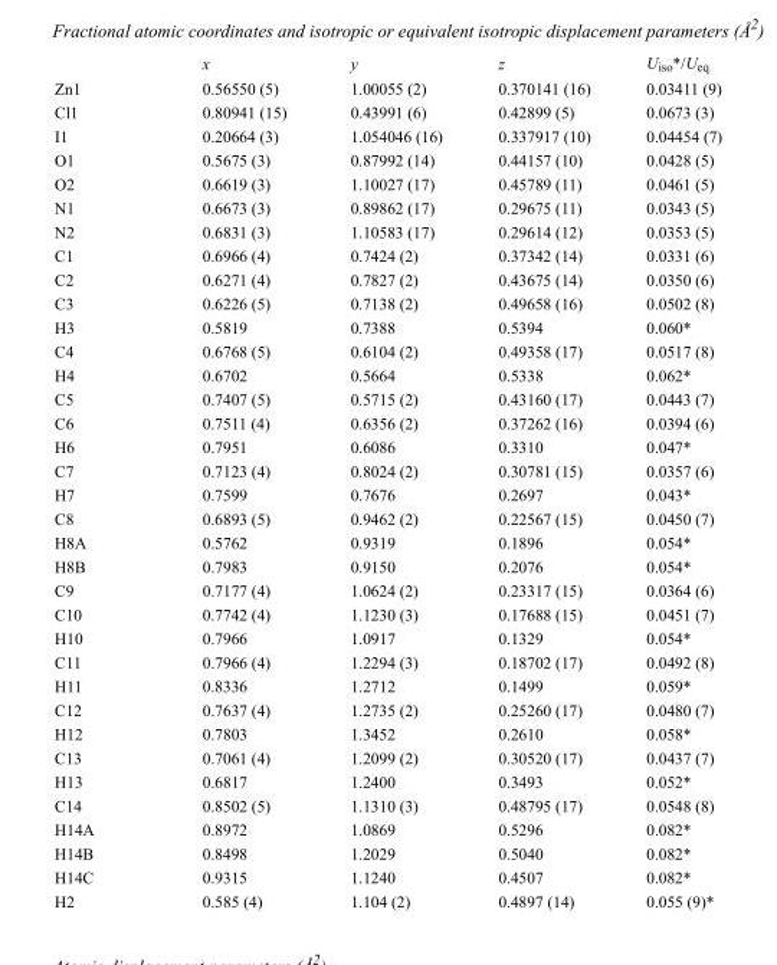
<table><thead><tr><td></td><td>x</td><td>y</td><td>z</td><td>U<sub>iso</sub>*/U<sub>eq</sub></td></tr></thead><tbody><tr><td>Zn1</td><td>0.56550 (5)</td><td>1.00055 (2)</td><td>0.370141 (16)</td><td>0.03411 (9)</td></tr><tr><td>Cl1</td><td>0.80941 (15)</td><td>0.43991 (6)</td><td>0.42899 (5)</td><td>0.0673 (3)</td></tr><tr><td>I1</td><td>0.20664 (3)</td><td>1.054046 (16)</td><td>0.337917 (10)</td><td>0.04454 (7)</td></tr><tr><td>O1</td><td>0.5675 (3)</td><td>0.87992 (14)</td><td>0.44157 (10)</td><td>0.0428 (5)</td></tr><tr><td>O2</td><td>0.6619 (3)</td><td>1.10027 (17)</td><td>0.45789 (11)</td><td>0.0461 (5)</td></tr><tr><td>N1</td><td>0.6673 (3)</td><td>0.89862 (17)</td><td>0.29675 (11)</td><td>0.0343 (5)</td></tr><tr><td>N2</td><td>0.6831 (3)</td><td>1.10583 (17)</td><td>0.29614 (12)</td><td>0.0353 (5)</td></tr><tr><td>C1</td><td>0.6966 (4)</td><td>0.7424 (2)</td><td>0.37342 (14)</td><td>0.0331 (6)</td></tr><tr><td>C2</td><td>0.6271 (4)</td><td>0.7827 (2)</td><td>0.43675 (14)</td><td>0.0350 (6)</td></tr><tr><td>C3</td><td>0.6226 (5)</td><td>0.7138 (2)</td><td>0.49658 (16)</td><td>0.0502 (8)</td></tr><tr><td>H3</td><td>0.5819</td><td>0.7388</td><td>0.5394</td><td>0.060*</td></tr><tr><td>C4</td><td>0.6768 (5)</td><td>0.6104 (2)</td><td>0.49358 (17)</td><td>0.0517 (8)</td></tr><tr><td>H4</td><td>0.6702</td><td>0.5664</td><td>0.5338</td><td>0.062*</td></tr><tr><td>C5</td><td>0.7407 (5)</td><td>0.5715 (2)</td><td>0.43160 (17)</td><td>0.0443 (7)</td></tr><tr><td>C6</td><td>0.7511 (4)</td><td>0.6356 (2)</td><td>0.37262 (16)</td><td>0.0394 (6)</td></tr><tr><td>H6</td><td>0.7951</td><td>0.6086</td><td>0.3310</td><td>0.047*</td></tr><tr><td>C7</td><td>0.7123 (4)</td><td>0.8024 (2)</td><td>0.30781 (15)</td><td>0.0357 (6)</td></tr><tr><td>H7</td><td>0.7599</td><td>0.7676</td><td>0.2697</td><td>0.043*</td></tr><tr><td>C8</td><td>0.6893 (5)</td><td>0.9462 (2)</td><td>0.22567 (15)</td><td>0.0450 (7)</td></tr><tr><td>H8A</td><td>0.5762</td><td>0.9319</td><td>0.1896</td><td>0.054*</td></tr><tr><td>H8B</td><td>0.7983</td><td>0.9150</td><td>0.2076</td><td>0.054*</td></tr><tr><td>C9</td><td>0.7177 (4)</td><td>1.0624 (2)</td><td>0.23317 (15)</td><td>0.0364 (6)</td></tr><tr><td>C10</td><td>0.7742 (4)</td><td>1.1230 (3)</td><td>0.17688 (15)</td><td>0.0451 (7)</td></tr><tr><td>H10</td><td>0.7966</td><td>1.0917</td><td>0.1329</td><td>0.054*</td></tr><tr><td>C11</td><td>0.7966 (4)</td><td>1.2294 (3)</td><td>0.18702 (17)</td><td>0.0492 (8)</td></tr><tr><td>H11</td><td>0.8336</td><td>1.2712</td><td>0.1499</td><td>0.059*</td></tr><tr><td>C12</td><td>0.7637 (4)</td><td>1.2735 (2)</td><td>0.25260 (17)</td><td>0.0480 (7)</td></tr><tr><td>H12</td><td>0.7803</td><td>1.3452</td><td>0.2610</td><td>0.058*</td></tr><tr><td>C13</td><td>0.7061 (4)</td><td>1.2099 (2)</td><td>0.30520 (17)</td><td>0.0437 (7)</td></tr><tr><td>H13</td><td>0.6817</td><td>1.2400</td><td>0.3493</td><td>0.052*</td></tr><tr><td>C14</td><td>0.8502 (5)</td><td>1.1310 (3)</td><td>0.48795 (17)</td><td>0.0548 (8)</td></tr><tr><td>H14A</td><td>0.8972</td><td>1.0869</td><td>0.5296</td><td>0.082*</td></tr><tr><td>H14B</td><td>0.8498</td><td>1.2029</td><td>0.5040</td><td>0.082*</td></tr><tr><td>H14C</td><td>0.9315</td><td>1.1240</td><td>0.4507</td><td>0.082*</td></tr><tr><td>H2</td><td>0.585 (4)</td><td>1.104 (2)</td><td>0.4897 (14)</td><td>0.055 (9)*</td></tr></tbody></table>